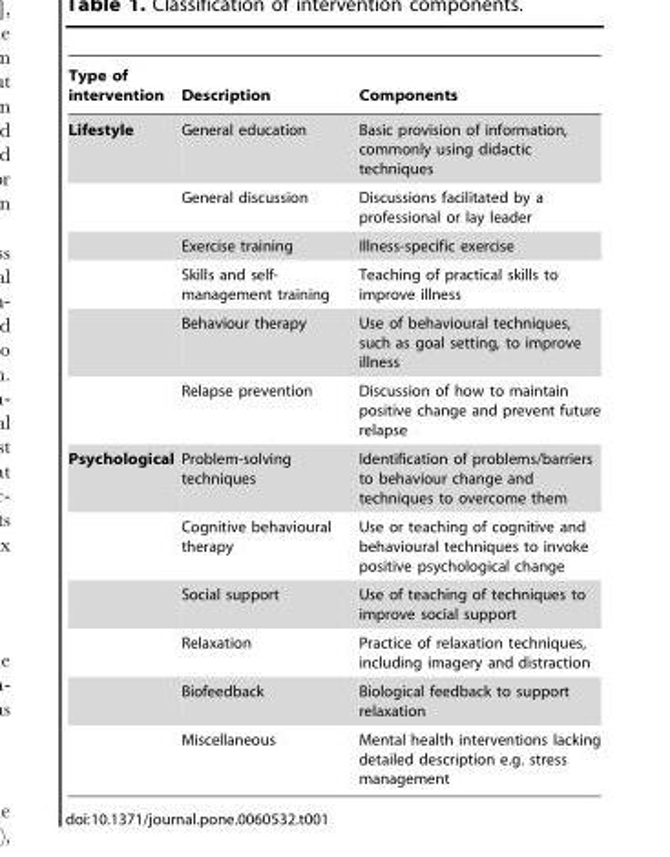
<table><thead><tr><td>Type of intervention</td><td>Description</td><td>Components</td></tr></thead><tbody><tr><td rowspan="6">Lifestyle</td><td>General education</td><td>Basic provision of information, commonly using didactic techniques</td></tr><tr><td>General discussion</td><td>Discussions facilitated by a professional or lay leader</td></tr><tr><td>Exercise training</td><td>Illness-specific exercise</td></tr><tr><td>Skills and self- management training</td><td>Teaching of practical skills to improve illness</td></tr><tr><td>Behaviour therapy</td><td>Use of behavioural techniques, such as goal setting, to improve illness</td></tr><tr><td>Relapse prevention</td><td>Discussion of how to maintain positive change and prevent future relapse</td></tr><tr><td rowspan="6">Psychological</td><td>Problem-solving techniques</td><td>Identification of problems/barriers to behaviour change and techniques to overcome them</td></tr><tr><td>Cognitive behavioural therapy</td><td>Use or teaching of cognitive and behavioural techniques to invoke positive psychological change</td></tr><tr><td>Social support</td><td>Use of teaching of techniques to improve social support</td></tr><tr><td>Relaxation</td><td>Practice of relaxation techniques, including imagery and distraction</td></tr><tr><td>Biofeedback</td><td>Biological feedback to support relaxation</td></tr><tr><td>Miscellaneous</td><td>Mental health interventions lacking detailed description e.g. stress management</td></tr></tbody></table>